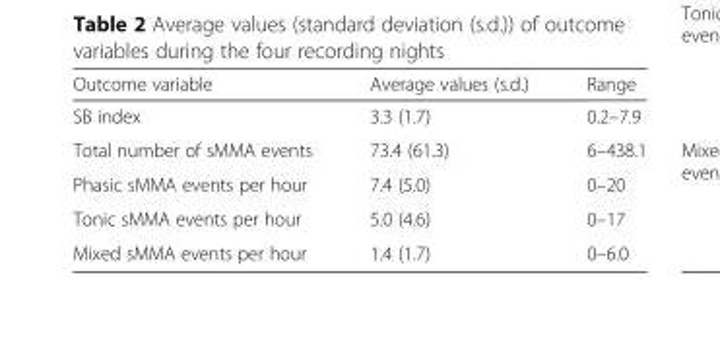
<table><thead><tr><td>Outcome variable</td><td>Average values (s.d.)</td><td>Range</td></tr></thead><tbody><tr><td>SB index</td><td>3.3 (1.7)</td><td>0.2–7.9</td></tr><tr><td>Total number of sMMA events</td><td>73.4 (61.3)</td><td>6–438.1</td></tr><tr><td>Phasic sMMA events per hour</td><td>7.4 (5.0)</td><td>0–20</td></tr><tr><td>Tonic sMMA events per hour</td><td>5.0 (4.6)</td><td>0–17</td></tr><tr><td>Mixed sMMA events per hour</td><td>1.4 (1.7)</td><td>0–6.0</td></tr></tbody></table>